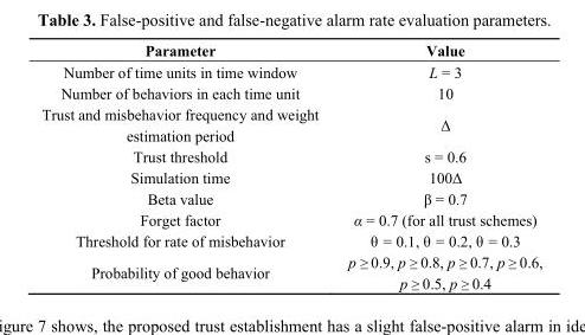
<table><thead><tr><td>Parameter</td><td>Value</td></tr></thead><tbody><tr><td>Number of time units in time window</td><td>L = 3</td></tr><tr><td>Number of behaviors in each time unit</td><td>10</td></tr><tr><td>Trust and misbehavior frequency and weight estimation period</td><td>Δ</td></tr><tr><td>Trust threshold</td><td>s = 0.6</td></tr><tr><td>Simulation time</td><td>100Δ</td></tr><tr><td>Beta value</td><td>β = 0.7</td></tr><tr><td>Forget factor</td><td>α = 0.7 (for all trust schemes)</td></tr><tr><td>Threshold for rate of misbehavior</td><td>θ = 0.1, θ = 0.2, θ = 0.3</td></tr><tr><td>Probability of good behavior</td><td>p ≥ 0.9, p ≥ 0.8, p ≥ 0.7, p ≥ 0.6, p ≥ 0.5, p ≥ 0.4</td></tr></tbody></table>